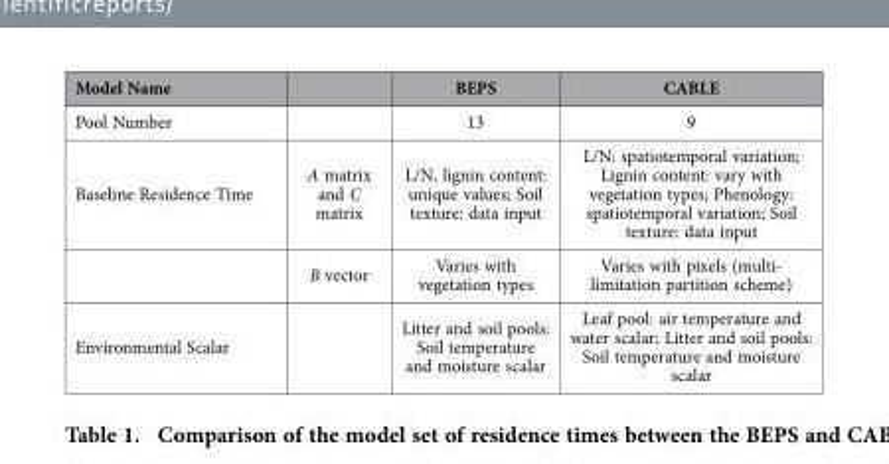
<table><thead><tr><td>Model Name</td><td></td><td>BEPS</td><td>CABLE</td></tr></thead><tbody><tr><td>Pool Number</td><td></td><td>13</td><td>9</td></tr><tr><td rowspan="2">Baseline Residence Time</td><td>A matrix and C matrix</td><td>L/N, lignin content: unique values; Soil texture: data input</td><td>L/N: spatiotemporal variation; Lignin content: vary with vegetation types; Phenology: spatiotemporal variation; Soil texture: data input</td></tr><tr><td>B vector</td><td>Varies with vegetation types</td><td>Varies with pixels (multi- limitation partition scheme)</td></tr><tr><td>Environmental Scalar</td><td></td><td>Litter and soil pools: Soil temperature and moisture scalar</td><td>Leaf pool: air temperature and water scalar; Litter and soil pools: Soil temperature and moisture scalar</td></tr></tbody></table>